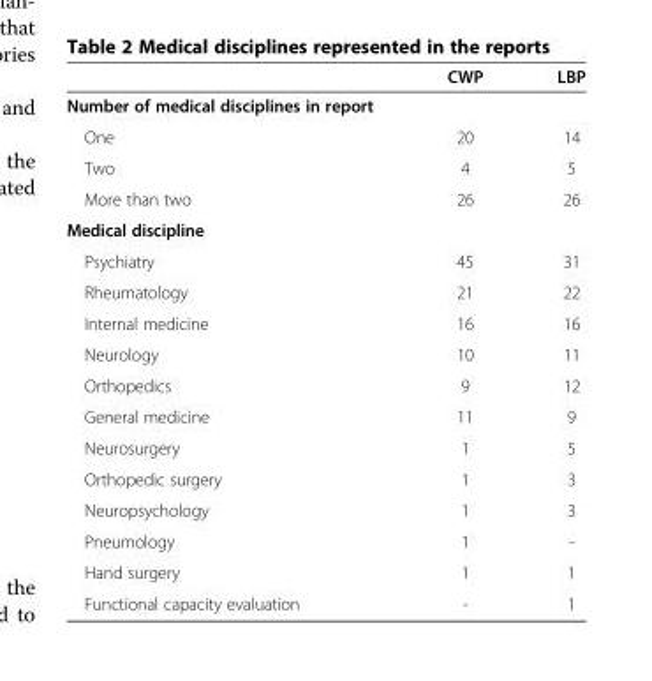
<table><thead><tr><td></td><td>CWP</td><td>LBP</td></tr></thead><tbody><tr><td colspan="3">Number of medical disciplines in report</td></tr><tr><td>One</td><td>20</td><td>14</td></tr><tr><td>Two</td><td>4</td><td>5</td></tr><tr><td>More than two</td><td>26</td><td>26</td></tr><tr><td colspan="3">Medical discipline</td></tr><tr><td>Psychiatry</td><td>45</td><td>31</td></tr><tr><td>Rheumatology</td><td>21</td><td>22</td></tr><tr><td>Internal medicine</td><td>16</td><td>16</td></tr><tr><td>Neurology</td><td>10</td><td>11</td></tr><tr><td>Orthopedics</td><td>9</td><td>12</td></tr><tr><td>General medicine</td><td>11</td><td>9</td></tr><tr><td>Neurosurgery</td><td>1</td><td>5</td></tr><tr><td>Orthopedic surgery</td><td>1</td><td>3</td></tr><tr><td>Neuropsychology</td><td>1</td><td>3</td></tr><tr><td>Pneumology</td><td>1</td><td>-</td></tr><tr><td>Hand surgery</td><td>1</td><td>1</td></tr><tr><td>Functional capacity evaluation</td><td>-</td><td>1</td></tr></tbody></table>